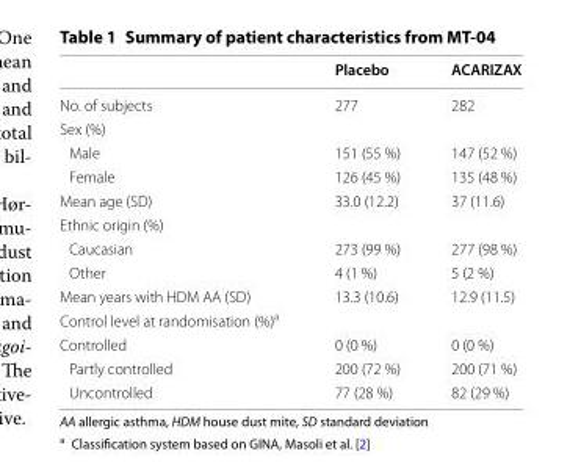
<table><thead><tr><td></td><td>Placebo</td><td>ACARIZAX</td></tr></thead><tbody><tr><td>No. of subjects</td><td>277</td><td>282</td></tr><tr><td colspan="3">Sex (%)</td></tr><tr><td>Male</td><td>151 (55 %)</td><td>147 (52 %)</td></tr><tr><td>Female</td><td>126 (45 %)</td><td>135 (48 %)</td></tr><tr><td>Mean age (SD)</td><td>33.0 (12.2)</td><td>37 (11.6)</td></tr><tr><td colspan="3">Ethnic origin (%)</td></tr><tr><td>Caucasian</td><td>273 (99 %)</td><td>277 (98 %)</td></tr><tr><td>Other</td><td>4 (1 %)</td><td>5 (2 %)</td></tr><tr><td>Mean years with HDM AA (SD)</td><td>13.3 (10.6)</td><td>12.9 (11.5)</td></tr><tr><td colspan="3">Control level at randomisation (%)<sup>a</sup></td></tr><tr><td>Controlled</td><td>0 (0 %)</td><td>0 (0 %)</td></tr><tr><td>Partly controlled</td><td>200 (72 %)</td><td>200 (71 %)</td></tr><tr><td>Uncontrolled</td><td>77 (28 %)</td><td>82 (29 %)</td></tr></tbody></table>